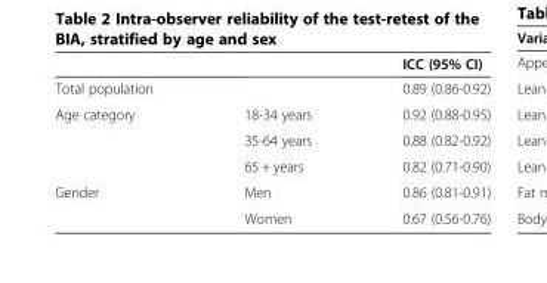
<table><thead><tr><td></td><td></td><td>ICC (95% CI)</td></tr></thead><tbody><tr><td>Total population</td><td></td><td>0.89 (0.86-0.92)</td></tr><tr><td rowspan="3">Age category</td><td>18-34 years</td><td>0.92 (0.88-0.95)</td></tr><tr><td>35-64 years</td><td>0.88 (0.82-0.92)</td></tr><tr><td>65 + years</td><td>0.82 (0.71-0.90)</td></tr><tr><td rowspan="2">Gender</td><td>Men</td><td>0.86 (0.81-0.91)</td></tr><tr><td>Women</td><td>0.67 (0.56-0.76)</td></tr></tbody></table>